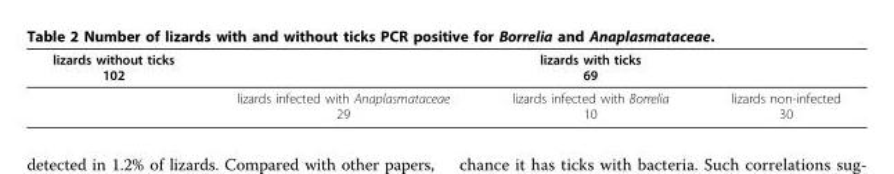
<table><thead><tr><td>lizards without ticks 102</td><td></td><td>lizards with ticks 69</td><td></td></tr></thead><tbody><tr><td></td><td>lizards infected with Anaplasmataceae 29</td><td>lizards infected with Borrelia 10</td><td>lizards non-infected 30</td></tr></tbody></table>